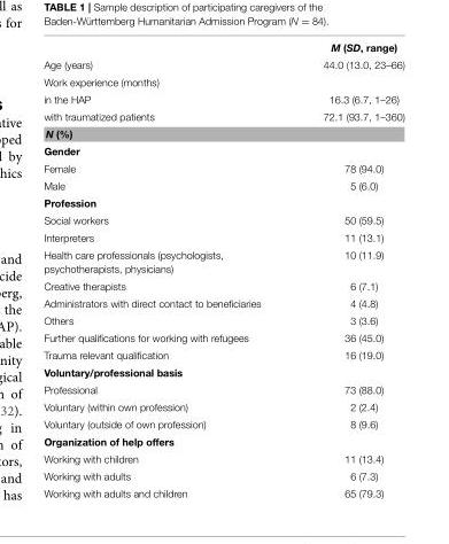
<table><thead><tr><td></td><td>M (SD, range)</td></tr></thead><tbody><tr><td>Age (years)</td><td>44.0 (13.0, 23–66)</td></tr><tr><td colspan="2">Work experience (months)</td></tr><tr><td>in the HAP</td><td>16.3 (6.7, 1–26)</td></tr><tr><td>with traumatized patients</td><td>72.1 (93.7, 1–360)</td></tr><tr><td colspan="2">N (%)</td></tr><tr><td colspan="2">Gender</td></tr><tr><td>Female</td><td>78 (94.0)</td></tr><tr><td>Male</td><td>5 (6.0)</td></tr><tr><td colspan="2">Profession</td></tr><tr><td>Social workers</td><td>50 (59.5)</td></tr><tr><td>Interpreters</td><td>11 (13.1)</td></tr><tr><td>Health care professionals (psychologists, psychotherapists, physicians)</td><td>10 (11.9)</td></tr><tr><td>Creative therapists</td><td>6 (7.1)</td></tr><tr><td>Administrators with direct contact to beneficiaries</td><td>4 (4.8)</td></tr><tr><td>Others</td><td>3 (3.6)</td></tr><tr><td>Further qualifications for working with refugees</td><td>36 (45.0)</td></tr><tr><td>Trauma relevant qualification</td><td>16 (19.0)</td></tr><tr><td colspan="2">Voluntary/professional basis</td></tr><tr><td>Professional</td><td>73 (88.0)</td></tr><tr><td>Voluntary (within own profession)</td><td>2 (2.4)</td></tr><tr><td>Voluntary (outside of own profession)</td><td>8 (9.6)</td></tr><tr><td colspan="2">Organization of help offers</td></tr><tr><td>Working with children</td><td>11 (13.4)</td></tr><tr><td>Working with adults</td><td>6 (7.3)</td></tr><tr><td>Working with adults and children</td><td>65 (79.3)</td></tr></tbody></table>